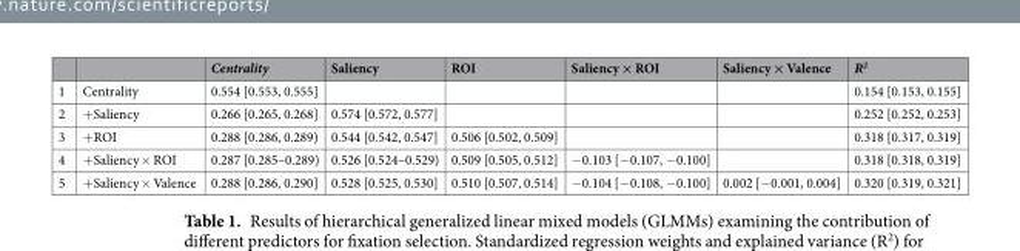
<table><thead><tr><td></td><td></td><td>Centrality</td><td>Saliency</td><td>ROI</td><td>Saliency × ROI</td><td>Saliency × Valence</td><td>R<sup>2</sup></td></tr></thead><tbody><tr><td>1</td><td>Centrality</td><td>0.554 [0.553, 0.555]</td><td></td><td></td><td></td><td></td><td>0.154 [0.153, 0.155]</td></tr><tr><td>2</td><td>+Saliency</td><td>0.266 [0.265, 0.268]</td><td>0.574 [0.572, 0.577]</td><td></td><td></td><td></td><td>0.252 [0.252, 0.253]</td></tr><tr><td>3</td><td>+ROI</td><td>0.288 [0.286, 0.289)</td><td>0.544 [0.542, 0.547]</td><td>0.506 [0.502, 0.509]</td><td></td><td></td><td>0.318 [0.317, 0.319]</td></tr><tr><td>4</td><td>+Saliency × ROI</td><td>0.287 [0.285–0.289)</td><td>0.526 [0.524–0.529)</td><td>0.509 [0.505, 0.512]</td><td>−0.103 [−0.107, −0.100]</td><td></td><td>0.318 [0.318, 0.319]</td></tr><tr><td>5</td><td>+Saliency × Valence</td><td>0.288 [0.286, 0.290]</td><td>0.528 [0.525, 0.530]</td><td>0.510 [0.507, 0.514]</td><td>−0.104 [−0.108, −0.100]</td><td>0.002 [−0.001, 0.004]</td><td>0.320 [0.319, 0.321]</td></tr></tbody></table>